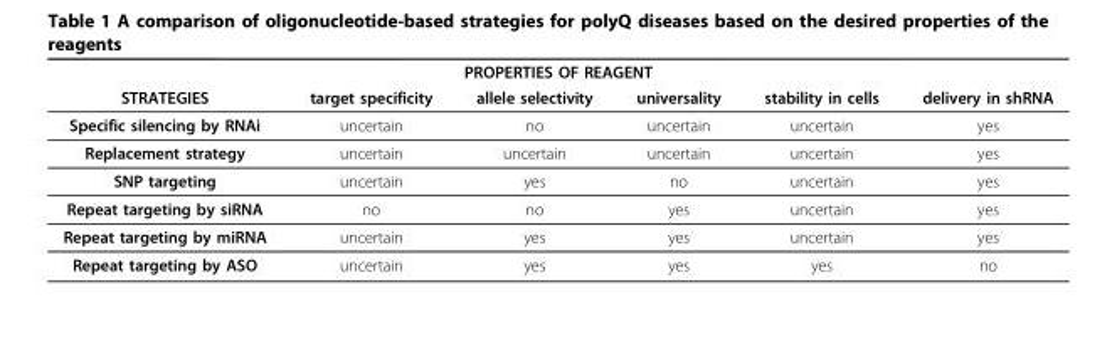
<table><thead><tr><td colspan="6">PROPERTIES OF REAGENT</td></tr><tr><td>STRATEGIES</td><td>target specificity</td><td>allele selectivity</td><td>universality</td><td>stability in cells</td><td>delivery in shRNA</td></tr></thead><tbody><tr><td>Specific silencing by RNAi</td><td>uncertain</td><td>no</td><td>uncertain</td><td>uncertain</td><td>yes</td></tr><tr><td>Replacement strategy</td><td>uncertain</td><td>uncertain</td><td>uncertain</td><td>uncertain</td><td>yes</td></tr><tr><td>SNP targeting</td><td>uncertain</td><td>yes</td><td>no</td><td>uncertain</td><td>yes</td></tr><tr><td>Repeat targeting by siRNA</td><td>no</td><td>no</td><td>yes</td><td>uncertain</td><td>yes</td></tr><tr><td>Repeat targeting by miRNA</td><td>uncertain</td><td>yes</td><td>yes</td><td>uncertain</td><td>yes</td></tr><tr><td>Repeat targeting by ASO</td><td>uncertain</td><td>yes</td><td>yes</td><td>yes</td><td>no</td></tr></tbody></table>